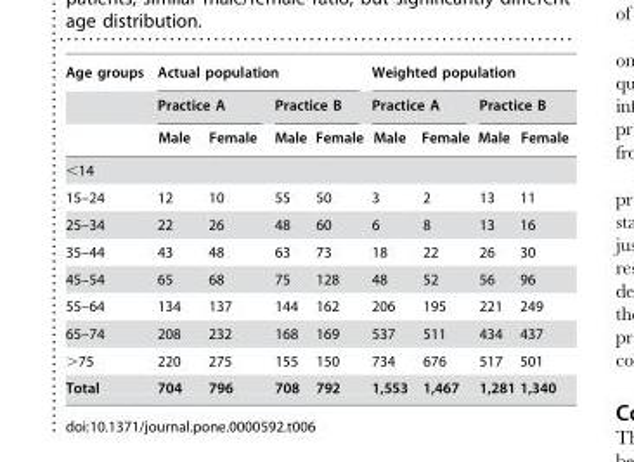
<table><thead><tr><td rowspan="3">Age groups</td><td colspan="4">Actual population</td><td colspan="4">Weighted population</td></tr><tr><td colspan="2">Practice A</td><td colspan="2">Practice B</td><td colspan="2">Practice A</td><td colspan="2">Practice B</td></tr><tr><td>Male</td><td>Female</td><td>Male</td><td>Female</td><td>Male</td><td>Female</td><td>Male</td><td>Female</td></tr></thead><tbody><tr><td colspan="9">&lt;14</td></tr><tr><td>15–24</td><td>12</td><td>10</td><td>55</td><td>50</td><td>3</td><td>2</td><td>13</td><td>11</td></tr><tr><td>25–34</td><td>22</td><td>26</td><td>48</td><td>60</td><td>6</td><td>8</td><td>13</td><td>16</td></tr><tr><td>35–44</td><td>43</td><td>48</td><td>63</td><td>73</td><td>18</td><td>22</td><td>26</td><td>30</td></tr><tr><td>45–54</td><td>65</td><td>68</td><td>75</td><td>128</td><td>48</td><td>52</td><td>56</td><td>96</td></tr><tr><td>55–64</td><td>134</td><td>137</td><td>144</td><td>162</td><td>206</td><td>195</td><td>221</td><td>249</td></tr><tr><td>65–74</td><td>208</td><td>232</td><td>168</td><td>169</td><td>537</td><td>511</td><td>434</td><td>437</td></tr><tr><td>&gt;75</td><td>220</td><td>275</td><td>155</td><td>150</td><td>734</td><td>676</td><td>517</td><td>501</td></tr><tr><td>Total</td><td>704</td><td>796</td><td>708</td><td>792</td><td>1,553</td><td>1,467</td><td>1,281</td><td>1,340</td></tr></tbody></table>